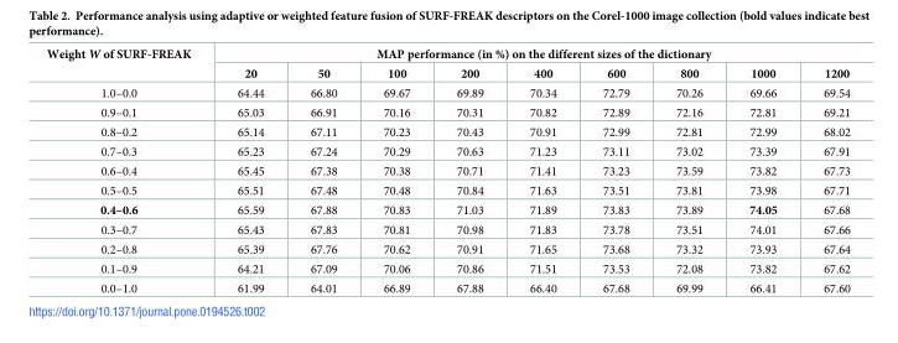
<table><thead><tr><td rowspan="2">Weight W of SURF-FREAK</td><td colspan="9">MAP performance (in %) on the different sizes of the dictionary</td></tr><tr><td>20</td><td>50</td><td>100</td><td>200</td><td>400</td><td>600</td><td>800</td><td>1000</td><td>1200</td></tr></thead><tbody><tr><td>1.0–0.0</td><td>64.44</td><td>66.80</td><td>69.67</td><td>69.89</td><td>70.34</td><td>72.79</td><td>70.26</td><td>69.66</td><td>69.54</td></tr><tr><td>0.9–0.1</td><td>65.03</td><td>66.91</td><td>70.16</td><td>70.31</td><td>70.82</td><td>72.89</td><td>72.16</td><td>72.81</td><td>69.21</td></tr><tr><td>0.8–0.2</td><td>65.14</td><td>67.11</td><td>70.23</td><td>70.43</td><td>70.91</td><td>72.99</td><td>72.81</td><td>72.99</td><td>68.02</td></tr><tr><td>0.7–0.3</td><td>65.23</td><td>67.24</td><td>70.29</td><td>70.63</td><td>71.23</td><td>73.11</td><td>73.02</td><td>73.39</td><td>67.91</td></tr><tr><td>0.6–0.4</td><td>65.45</td><td>67.38</td><td>70.38</td><td>70.71</td><td>71.41</td><td>73.23</td><td>73.59</td><td>73.82</td><td>67.73</td></tr><tr><td>0.5–0.5</td><td>65.51</td><td>67.48</td><td>70.48</td><td>70.84</td><td>71.63</td><td>73.51</td><td>73.81</td><td>73.98</td><td>67.71</td></tr><tr><td>0.4–0.6</td><td>65.59</td><td>67.88</td><td>70.83</td><td>71.03</td><td>71.89</td><td>73.83</td><td>73.89</td><td>74.05</td><td>67.68</td></tr><tr><td>0.3–0.7</td><td>65.43</td><td>67.83</td><td>70.81</td><td>70.98</td><td>71.83</td><td>73.78</td><td>73.51</td><td>74.01</td><td>67.66</td></tr><tr><td>0.2–0.8</td><td>65.39</td><td>67.76</td><td>70.62</td><td>70.91</td><td>71.65</td><td>73.68</td><td>73.32</td><td>73.93</td><td>67.64</td></tr><tr><td>0.1–0.9</td><td>64.21</td><td>67.09</td><td>70.06</td><td>70.86</td><td>71.51</td><td>73.53</td><td>72.08</td><td>73.82</td><td>67.62</td></tr><tr><td>0.0–1.0</td><td>61.99</td><td>64.01</td><td>66.89</td><td>67.88</td><td>66.40</td><td>67.68</td><td>69.99</td><td>66.41</td><td>67.60</td></tr></tbody></table>